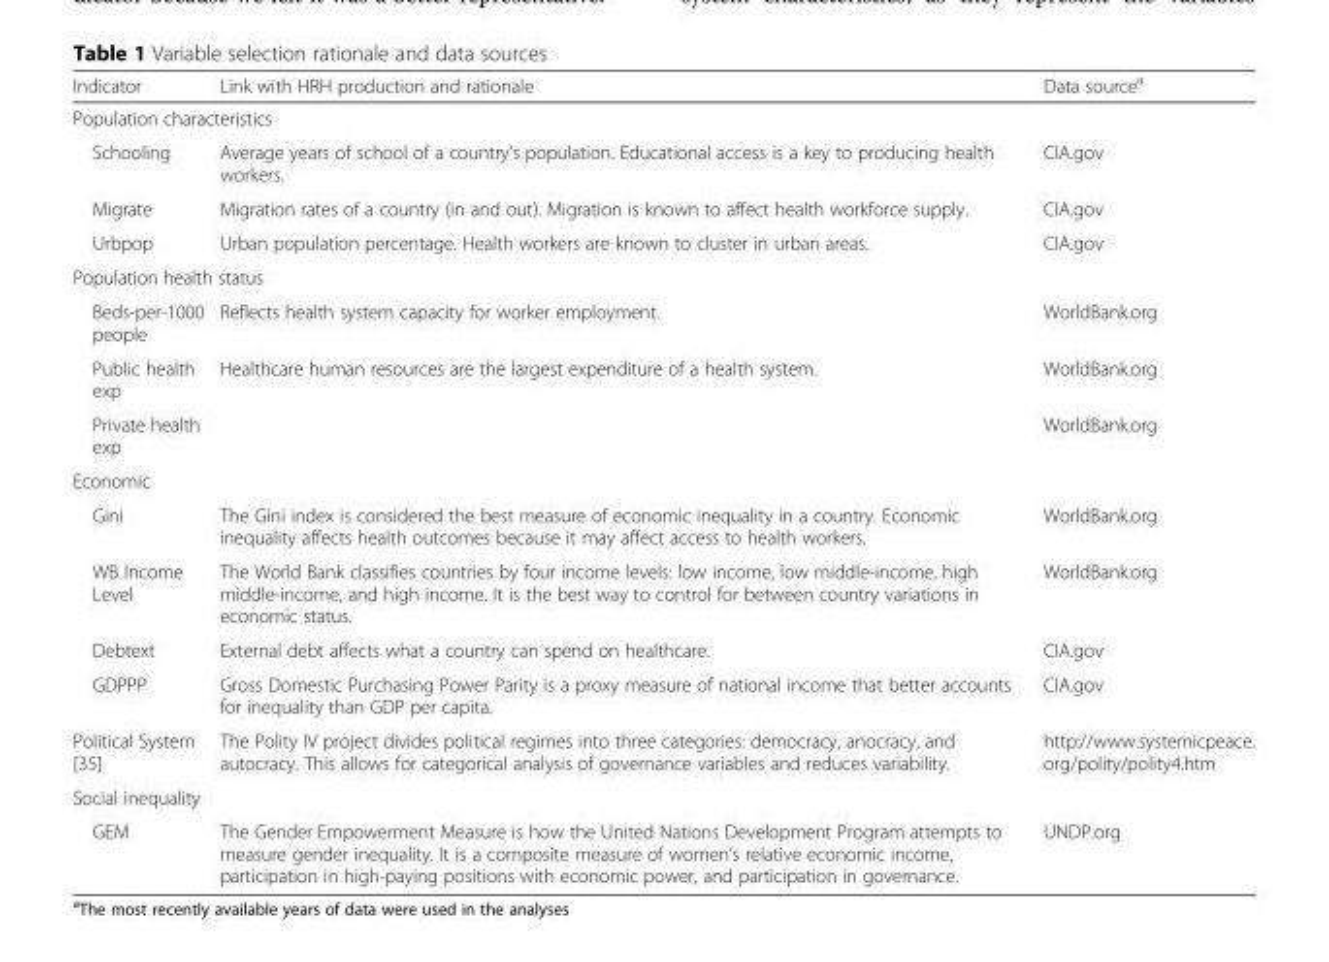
<table><thead><tr><td>Indicator</td><td>Link with HRH production and rationale</td><td>Data source<sup>a</sup></td></tr></thead><tbody><tr><td colspan="3">Population characteristics</td></tr><tr><td>Schooling</td><td>Average years of school of a country’s population. Educational access is a key to producing health workers.</td><td>CIA.gov</td></tr><tr><td>Migrate</td><td>Migration rates of a country (in and out). Migration is known to affect health workforce supply.</td><td>CIA.gov</td></tr><tr><td>Urbpop</td><td>Urban population percentage. Health workers are known to cluster in urban areas.</td><td>CIA.gov</td></tr><tr><td colspan="3">Population health status</td></tr><tr><td>Beds-per-1000 people</td><td>Reflects health system capacity for worker employment.</td><td>WorldBank.org</td></tr><tr><td>Public health exp</td><td>Healthcare human resources are the largest expenditure of a health system.</td><td>WorldBank.org</td></tr><tr><td>Private health exp</td><td></td><td>WorldBank.org</td></tr><tr><td colspan="3">Economic</td></tr><tr><td>Gini</td><td>The Gini index is considered the best measure of economic inequality in a country. Economic inequality affects health outcomes because it may affect access to health workers.</td><td>WorldBank.org</td></tr><tr><td>WB Income Level</td><td>The World Bank classifies countries by four income levels: low income, low middle-income, high middle-income, and high income. It is the best way to control for between country variations in economic status.</td><td>WorldBank.org</td></tr><tr><td>Debtext</td><td>External debt affects what a country can spend on healthcare.</td><td>CIA.gov</td></tr><tr><td>GDPPP</td><td>Gross Domestic Purchasing Power Parity is a proxy measure of national income that better accounts for inequality than GDP per capita.</td><td>CIA.gov</td></tr><tr><td>Political System [35]</td><td>The Polity IV project divides political regimes into three categories: democracy, anocracy, and autocracy. This allows for categorical analysis of governance variables and reduces variability.</td><td>http://www.systemicpeace. org/polity/polity4.htm</td></tr><tr><td colspan="3">Social inequality</td></tr><tr><td>GEM</td><td>The Gender Empowerment Measure is how the United Nations Development Program attempts to measure gender inequality. It is a composite measure of women’s relative economic income, participation in high-paying positions with economic power, and participation in governance.</td><td>UNDP.org</td></tr></tbody></table>